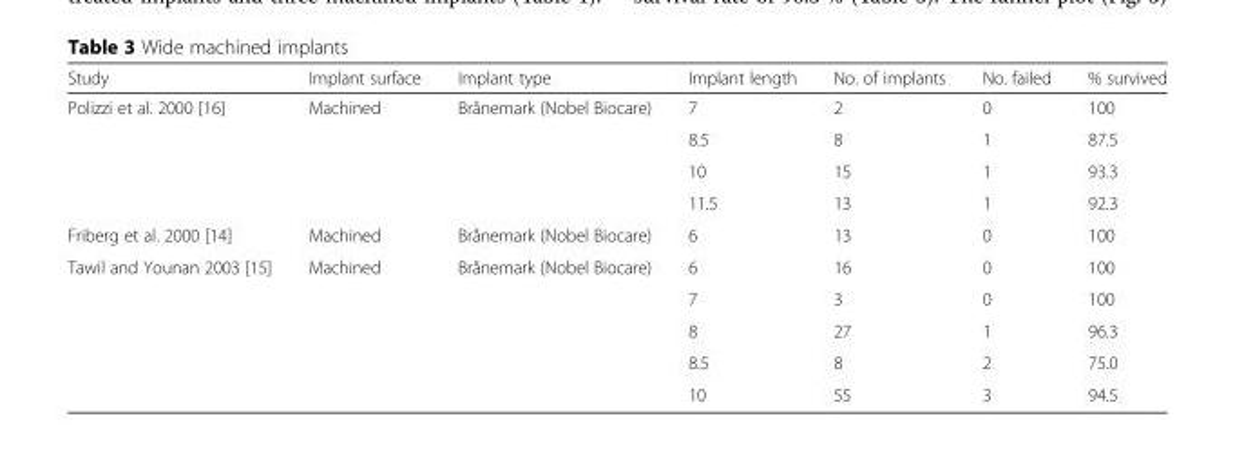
<table><thead><tr><td>Study</td><td>Implant surface</td><td>Implant type</td><td>Implant length</td><td>No. of implants</td><td>No. failed</td><td>% survived</td></tr></thead><tbody><tr><td rowspan="4">Polizzi et al. 2000 [16]</td><td rowspan="4">Machined</td><td rowspan="4">Brånemark (Nobel Biocare)</td><td>7</td><td>2</td><td>0</td><td>100</td></tr><tr><td>8.5</td><td>8</td><td>1</td><td>87.5</td></tr><tr><td>10</td><td>15</td><td>1</td><td>93.3</td></tr><tr><td>11.5</td><td>13</td><td>1</td><td>92.3</td></tr><tr><td>Friberg et al. 2000 [14]</td><td>Machined</td><td>Brånemark (Nobel Biocare)</td><td>6</td><td>13</td><td>0</td><td>100</td></tr><tr><td rowspan="5">Tawil and Younan 2003 [15]</td><td rowspan="5">Machined</td><td rowspan="5">Brånemark (Nobel Biocare)</td><td>6</td><td>16</td><td>0</td><td>100</td></tr><tr><td>7</td><td>3</td><td>0</td><td>100</td></tr><tr><td>8</td><td>27</td><td>1</td><td>96.3</td></tr><tr><td>8.5</td><td>8</td><td>2</td><td>75.0</td></tr><tr><td>10</td><td>55</td><td>3</td><td>94.5</td></tr></tbody></table>